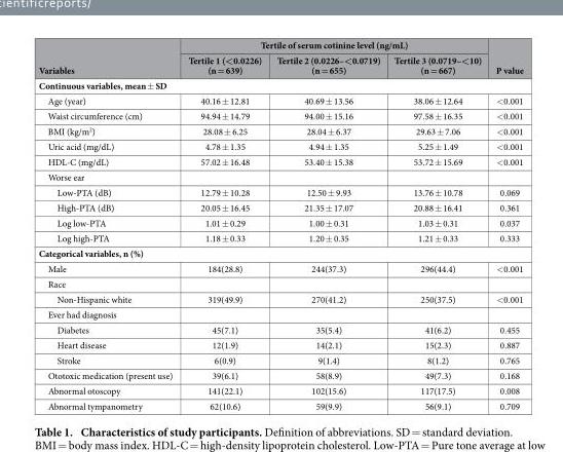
<table><thead><tr><td rowspan="2">Variables</td><td colspan="3">Tertile of serum cotinine level (ng/mL)</td><td rowspan="2">P value</td></tr><tr><td>Tertile 1 (&lt;0.0226) (n = 639)</td><td>Tertile 2 (0.0226–&lt;0.0719) (n = 655)</td><td>Tertile 3 (0.0719–&lt;10) (n = 667)</td></tr></thead><tbody><tr><td colspan="5">Continuous variables, mean ± SD</td></tr><tr><td>Age (year)</td><td>40.16 ± 12.81</td><td>40.69 ± 13.56</td><td>38.06 ± 12.64</td><td>&lt; 0.001</td></tr><tr><td>Waist circumference (cm)</td><td>94.94 ± 14.79</td><td>94.00 ± 15.16</td><td>97.58 ± 16.35</td><td>&lt; 0.001</td></tr><tr><td>BMI (kg/m<sup>2</sup>)</td><td>28.08 ± 6.25</td><td>28.04 ± 6.37</td><td>29.63 ± 7.06</td><td>&lt; 0.001</td></tr><tr><td>Uric acid (mg/dL)</td><td>4.78 ± 1.35</td><td>4.94 ± 1.35</td><td>5.25 ± 1.49</td><td>&lt; 0.001</td></tr><tr><td>HDL-C (mg/dL)</td><td>57.02 ± 16.48</td><td>53.40 ± 15.38</td><td>53.72 ± 15.69</td><td>&lt; 0.001</td></tr><tr><td colspan="5">Worse ear</td></tr><tr><td>Low-PTA (dB)</td><td>12.79 ± 10.28</td><td>12.50 ± 9.93</td><td>13.76 ± 10.78</td><td>0.069</td></tr><tr><td>High-PTA (dB)</td><td>20.05 ± 16.45</td><td>21.35 ± 17.07</td><td>20.88 ± 16.41</td><td>0.361</td></tr><tr><td>Log low-PTA</td><td>1.01 ± 0.29</td><td>1.00 ± 0.31</td><td>1.03 ± 0.31</td><td>0.037</td></tr><tr><td>Log high-PTA</td><td>1.18 ± 0.33</td><td>1.20 ± 0.35</td><td>1.21 ± 0.33</td><td>0.333</td></tr><tr><td colspan="5">Categorical variables, n (%)</td></tr><tr><td>Male</td><td>184(28.8)</td><td>244(37.3)</td><td>296(44.4)</td><td>&lt; 0.001</td></tr><tr><td colspan="5">Race</td></tr><tr><td>Non-Hispanic white</td><td>319(49.9)</td><td>270(41.2)</td><td>250(37.5)</td><td>&lt; 0.001</td></tr><tr><td colspan="5">Ever had diagnosis</td></tr><tr><td>Diabetes</td><td>45(7.1)</td><td>35(5.4)</td><td>41(6.2)</td><td>0.455</td></tr><tr><td>Heart disease</td><td>12(1.9)</td><td>14(2.1)</td><td>15(2.3)</td><td>0.887</td></tr><tr><td>Stroke</td><td>6(0.9)</td><td>9(1.4)</td><td>8(1.2)</td><td>0.765</td></tr><tr><td>Ototoxic medication (present use)</td><td>39(6.1)</td><td>58(8.9)</td><td>49(7.3)</td><td>0.168</td></tr><tr><td>Abnormal otoscopy</td><td>141(22.1)</td><td>102(15.6)</td><td>117(17.5)</td><td>0.008</td></tr><tr><td>Abnormal tympanometry</td><td>62(10.6)</td><td>59(9.9)</td><td>56(9.1)</td><td>0.709</td></tr></tbody></table>